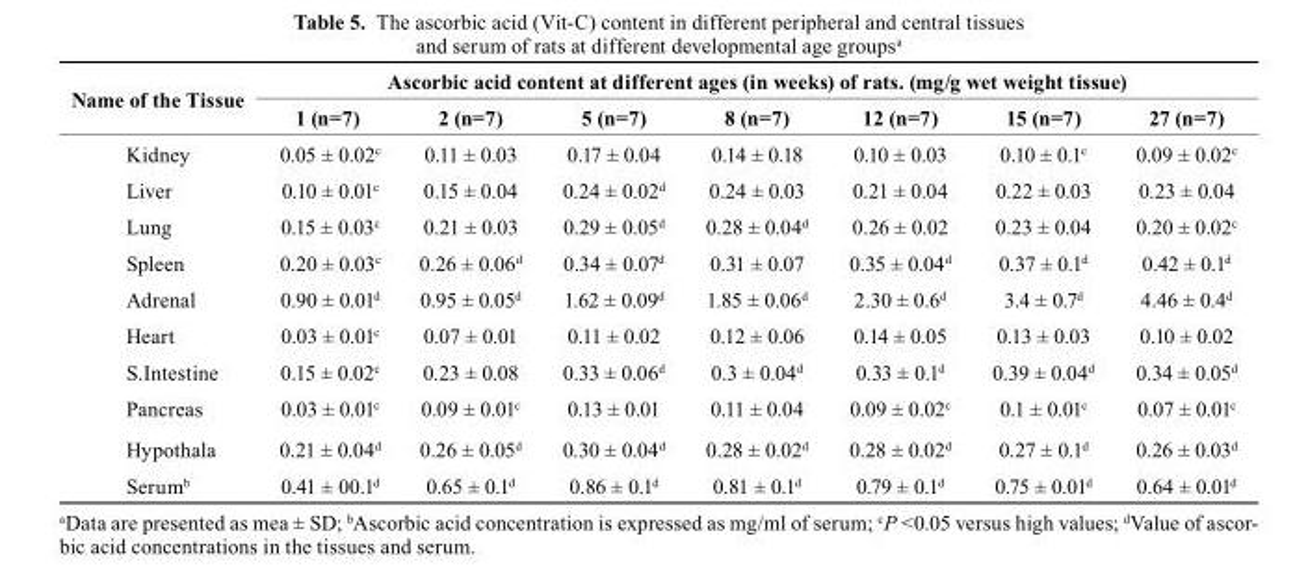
<table><thead><tr><td rowspan="2">Name of the Tissue</td><td colspan="7">Ascorbic acid content at different ages (in weeks) of rats. (mg/g wet weight tissue)</td></tr><tr><td>1 (n=7)</td><td>2 (n=7)</td><td>5 (n=7)</td><td>8 (n=7)</td><td>12 (n=7)</td><td>15 (n=7)</td><td>27 (n=7)</td></tr></thead><tbody><tr><td>Kidney</td><td>0.05 ± 0.02<sup>c</sup></td><td>0.11 ± 0.03</td><td>0.17 ± 0.04</td><td>0.14 ± 0.18</td><td>0.10 ± 0.03</td><td>0.10 ± 0.1<sup>c</sup></td><td>0.09 ± 0.02<sup>c</sup></td></tr><tr><td>Liver</td><td>0.10 ± 0.01<sup>c</sup></td><td>0.15 ± 0.04</td><td>0.24 ± 0.02<sup>d</sup></td><td>0.24 ± 0.03</td><td>0.21 ± 0.04</td><td>0.22 ± 0.03</td><td>0.23 ± 0.04</td></tr><tr><td>Lung</td><td>0.15 ± 0.03<sup>c</sup></td><td>0.21 ± 0.03</td><td>0.29 ± 0.05<sup>d</sup></td><td>0.28 ± 0.04<sup>d</sup></td><td>0.26 ± 0.02</td><td>0.23 ± 0.04</td><td>0.20 ± 0.02<sup>c</sup></td></tr><tr><td>Spleen</td><td>0.20 ± 0.03<sup>c</sup></td><td>0.26 ± 0.06<sup>d</sup></td><td>0.34 ± 0.07<sup>d</sup></td><td>0.31 ± 0.07</td><td>0.35 ± 0.04<sup>d</sup></td><td>0.37 ± 0.1<sup>d</sup></td><td>0.42 ± 0.1<sup>d</sup></td></tr><tr><td>Adrenal</td><td>0.90 ± 0.01<sup>d</sup></td><td>0.95 ± 0.05<sup>d</sup></td><td>1.62 ± 0.09<sup>d</sup></td><td>1.85 ± 0.06<sup>d</sup></td><td>2.30 ± 0.6<sup>d</sup></td><td>3.4 ± 0.7<sup>d</sup></td><td>4.46 ± 0.4<sup>d</sup></td></tr><tr><td>Heart</td><td>0.03 ± 0.01<sup>c</sup></td><td>0.07 ± 0.01</td><td>0.11 ± 0.02</td><td>0.12 ± 0.06</td><td>0.14 ± 0.05</td><td>0.13 ± 0.03</td><td>0.10 ± 0.02</td></tr><tr><td>S.Intestine</td><td>0.15 ± 0.02<sup>c</sup></td><td>0.23 ± 0.08</td><td>0.33 ± 0.06<sup>d</sup></td><td>0.3 ± 0.04<sup>d</sup></td><td>0.33 ± 0.1<sup>d</sup></td><td>0.39 ± 0.04<sup>d</sup></td><td>0.34 ± 0.05<sup>d</sup></td></tr><tr><td>Pancreas</td><td>0.03 ± 0.01<sup>c</sup></td><td>0.09 ± 0.01<sup>c</sup></td><td>0.13 ± 0.01</td><td>0.11 ± 0.04</td><td>0.09 ± 0.02<sup>c</sup></td><td>0.1 ± 0.01<sup>c</sup></td><td>0.07 ± 0.01<sup>c</sup></td></tr><tr><td>Hypothala</td><td>0.21 ± 0.04<sup>d</sup></td><td>0.26 ± 0.05<sup>d</sup></td><td>0.30 ± 0.04<sup>d</sup></td><td>0.28 ± 0.02<sup>d</sup></td><td>0.28 ± 0.02<sup>d</sup></td><td>0.27 ± 0.1<sup>d</sup></td><td>0.26 ± 0.03<sup>d</sup></td></tr><tr><td>Serum<sup>b</sup></td><td>0.41 ± 00.1<sup>d</sup></td><td>0.65 ± 0.1<sup>d</sup></td><td>0.86 ± 0.1<sup>d</sup></td><td>0.81 ± 0.1<sup>d</sup></td><td>0.79 ± 0.1<sup>d</sup></td><td>0.75 ± 0.01<sup>d</sup></td><td>0.64 ± 0.01<sup>d</sup></td></tr></tbody></table>